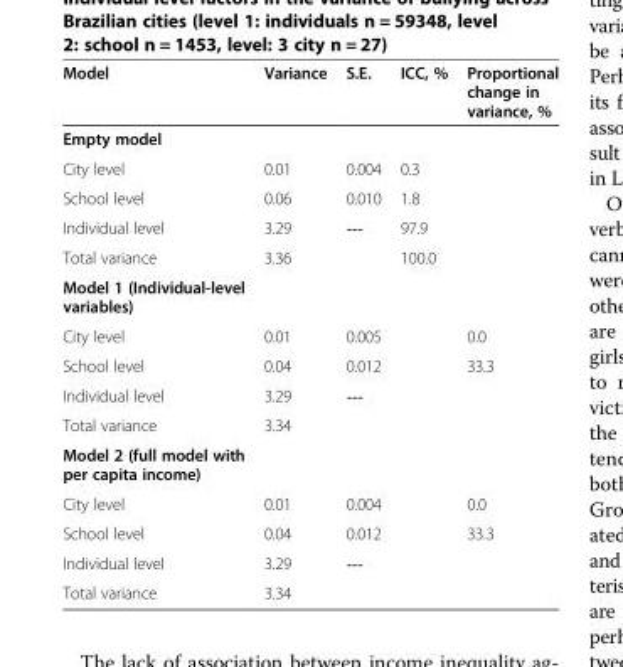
<table><thead><tr><td>Model</td><td>Variance</td><td>S.E.</td><td>ICC, %</td><td>Proportional change in variance, %</td></tr></thead><tbody><tr><td colspan="5">Empty model</td></tr><tr><td>City level</td><td>0.01</td><td>0.004</td><td>0.3</td><td></td></tr><tr><td>School level</td><td>0.06</td><td>0.010</td><td>1.8</td><td></td></tr><tr><td>Individual level</td><td>3.29</td><td>---</td><td>97.9</td><td></td></tr><tr><td>Total variance</td><td>3.36</td><td></td><td>100.0</td><td></td></tr><tr><td colspan="5">Model 1 (Individual-level variables)</td></tr><tr><td>City level</td><td>0.01</td><td>0.005</td><td></td><td>0.0</td></tr><tr><td>School level</td><td>0.04</td><td>0.012</td><td></td><td>33.3</td></tr><tr><td>Individual level</td><td>3.29</td><td>---</td><td></td><td></td></tr><tr><td>Total variance</td><td>3.34</td><td></td><td></td><td></td></tr><tr><td colspan="5">Model 2 (full model with per capita income)</td></tr><tr><td>City level</td><td>0.01</td><td>0.004</td><td></td><td>0.0</td></tr><tr><td>School level</td><td>0.04</td><td>0.012</td><td></td><td>33.3</td></tr><tr><td>Individual level</td><td>3.29</td><td>---</td><td></td><td></td></tr><tr><td>Total variance</td><td>3.34</td><td></td><td></td><td></td></tr></tbody></table>